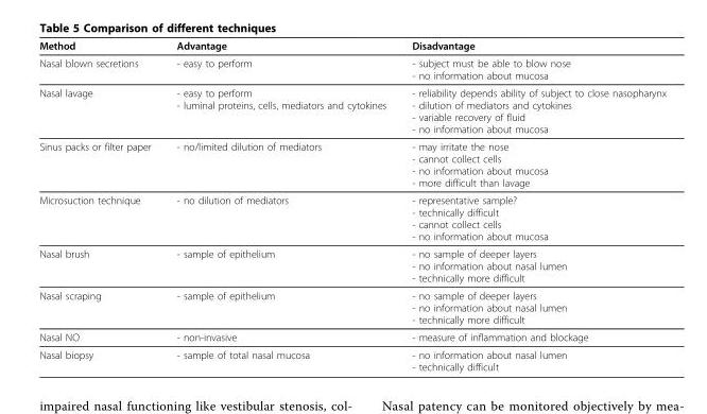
<table><thead><tr><td>Method</td><td>Advantage</td><td>Disadvantage</td></tr></thead><tbody><tr><td>Nasal blown secretions</td><td>- easy to perform</td><td>- subject must be able to blow nose - no information about mucosa</td></tr><tr><td>Nasal lavage</td><td>- easy to perform - luminal proteins, cells, mediators and cytokines</td><td>- reliability depends ability of subject to close nasopharynx - dilution of mediators and cytokines - variable recovery of fluid - no information about mucosa</td></tr><tr><td>Sinus packs or filter paper</td><td>- no/limited dilution of mediators</td><td>- may irritate the nose - cannot collect cells - no information about mucosa - more difficult than lavage</td></tr><tr><td>Microsuction technique</td><td>- no dilution of mediators</td><td>- representative sample? - technically difficult - cannot collect cells - no information about mucosa</td></tr><tr><td>Nasal brush</td><td>- sample of epithelium</td><td>- no sample of deeper layers - no information about nasal lumen - technically more difficult</td></tr><tr><td>Nasal scraping</td><td>- sample of epithelium</td><td>- no sample of deeper layers - no information about nasal lumen - technically more difficult</td></tr><tr><td>Nasal NO</td><td>- non-invasive</td><td>- measure of inflammation and blockage</td></tr><tr><td>Nasal biopsy</td><td>- sample of total nasal mucosa</td><td>- no information about nasal lumen - technically difficult</td></tr></tbody></table>